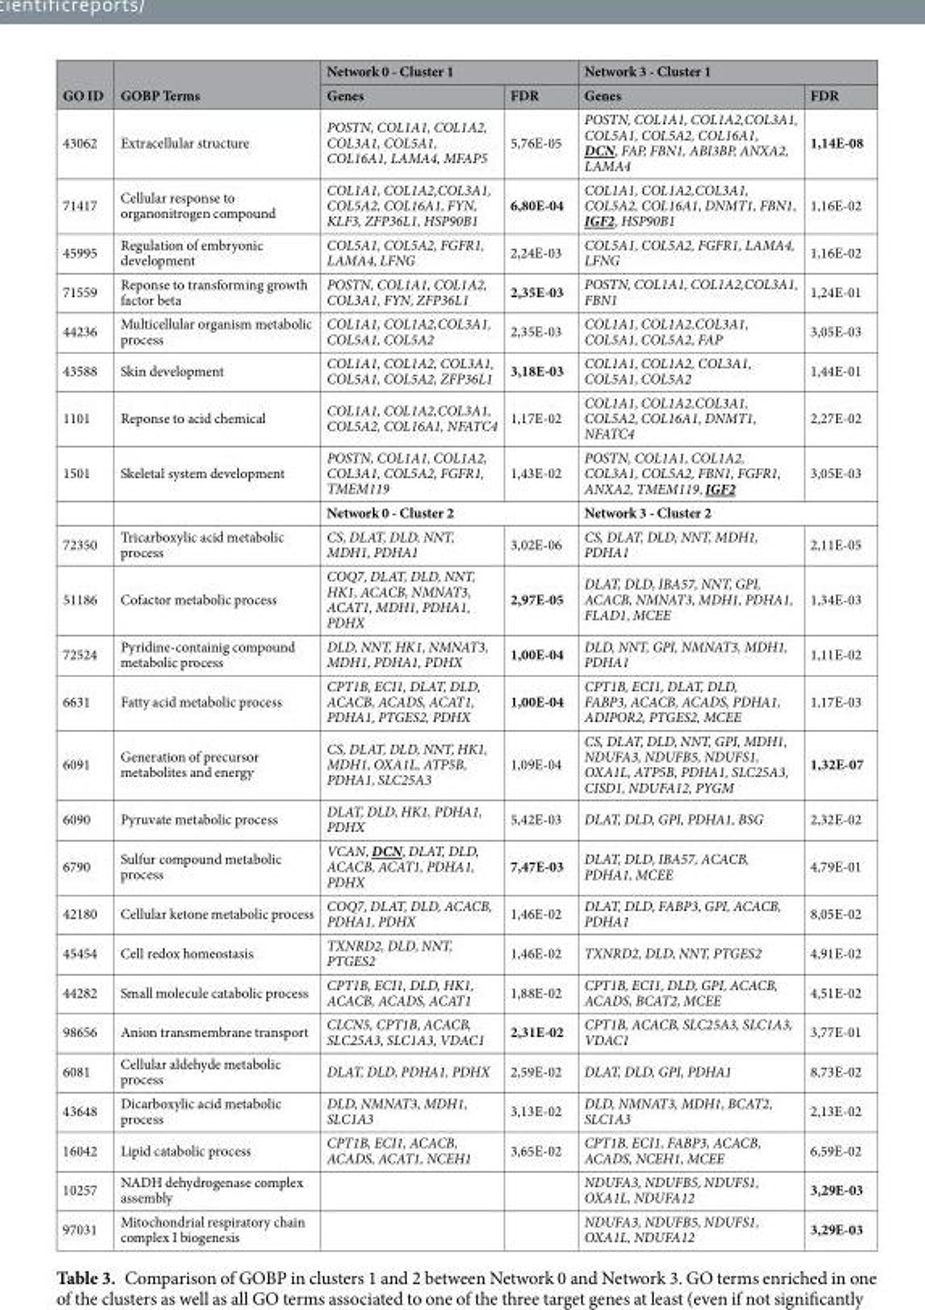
<table><thead><tr><td rowspan="2">GO ID</td><td rowspan="2">GOBP Terms</td><td colspan="2">Network 0 - Cluster 1</td><td colspan="2">Network 3 - Cluster 1</td></tr><tr><td>Genes</td><td>FDR</td><td>Genes</td><td>FDR</td></tr></thead><tbody><tr><td>43062</td><td>Extracellular structure</td><td>POSTN, COL1A1, COL1A2, COL3A1, COL5A1, COL16A1, LAMA4, MFAP5</td><td>5,76E-05</td><td>POSTN, COL1A1, COL1A2,COL3A1, COL5A1, COL5A2, COL16A1, DCN, FAP, FBN1, ABI3BP, ANXA2, LAMA4</td><td>1,14E-08</td></tr><tr><td>71417</td><td>Cellular response to organonitrogen compound</td><td>COL1A1, COL1A2,COL3A1, COL5A2, COL16A1, FYN, KLF3, ZFP36L1, HSP90B1</td><td>6,80E-04</td><td>COL1A1, COL1A2,COL3A1, COL5A2, COL16A1, DNMT1, FBN1, IGF2, HSP90B1</td><td>1,16E-02</td></tr><tr><td>45995</td><td>Regulation of embryonic development</td><td>COL5A1, COL5A2, FGFR1, LAMA4, LFNG</td><td>2,24E-03</td><td>COL5A1, COL5A2, FGFR1, LAMA4, LFNG</td><td>1,16E-02</td></tr><tr><td>71559</td><td>Reponse to transforming growth factor beta</td><td>POSTN, COL1A1, COL1A2, COL3A1, FYN, ZFP36L1</td><td>2,35E-03</td><td>POSTN, COL1A1, COL1A2,COL3A1, FBN1</td><td>1,24E-01</td></tr><tr><td>44236</td><td>Multicellular organism metabolic process</td><td>COL1A1, COL1A2,COL3A1, COL5A1, COL5A2</td><td>2,35E-03</td><td>COL1A1, COL1A2,COL3A1, COL5A1, COL5A2, FAP</td><td>3,05E-03</td></tr><tr><td>43588</td><td>Skin development</td><td>COL1A1, COL1A2, COL3A1, COL5A1, COL5A2, ZFP36L1</td><td>3,18E-03</td><td>COL1A1, COL1A2, COL3A1, COL5A1, COL5A2</td><td>1,44E-01</td></tr><tr><td>1101</td><td>Reponse to acid chemical</td><td>COL1A1, COL1A2,COL3A1, COL5A2, COL16A1, NFATC4</td><td>1,17E-02</td><td>COL1A1, COL1A2,COL3A1, COL5A2, COL16A1, DNMT1, NFATC4</td><td>2,27E-02</td></tr><tr><td rowspan="2">1501</td><td>Skeletal system development</td><td>POSTN, COL1A1, COL1A2, COL3A1, COL5A2, FGFR1, TMEM119</td><td>1,43E-02</td><td>POSTN, COL1A1, COL1A2, COL3A1, COL5A2, FBN1, FGFR1, ANXA2, TMEM119, IGF2</td><td>3,05E-03</td></tr><tr><td></td><td colspan="2">Network 0 - Cluster 2</td><td colspan="2">Network 3 - Cluster 2</td></tr><tr><td>72350</td><td>Tricarboxylic acid metabolic process</td><td>CS, DLAT, DLD, NNT, MDH1, PDHA1</td><td>3,02E-06</td><td>CS, DLAT, DLD, NNT, MDH1, PDHA1</td><td>2,11E-05</td></tr><tr><td>51186</td><td>Cofactor metabolic process</td><td>COQ7, DLAT, DLD, NNT, HK1, ACACB, NMNAT3, ACAT1, MDH1, PDHA1, PDHX</td><td>2,97E-05</td><td>DLAT, DLD, IBA57, NNT, GPI, ACACB, NMNAT3, MDH1, PDHA1, FLAD1, MCEE</td><td>1,34E-03</td></tr><tr><td>72524</td><td>Pyridine-containig compound metabolic process</td><td>DLD, NNT, HK1, NMNAT3, MDH1, PDHA1, PDHX</td><td>1,00E-04</td><td>DLD, NNT, GPI, NMNAT3, MDH1, PDHA1</td><td>1,11E-02</td></tr><tr><td>6631</td><td>Fatty acid metabolic process</td><td>CPT1B, ECI1, DLAT, DLD, ACACB, ACADS, ACAT1, PDHA1, PTGES2, PDHX</td><td>1,00E-04</td><td>CPT1B, ECI1, DLAT, DLD, FABP3, ACACB, ACADS, PDHA1, ADIPOR2, PTGES2, MCEE</td><td>1,17E-03</td></tr><tr><td>6091</td><td>Generation of precursor metabolites and energy</td><td>CS, DLAT, DLD, NNT, HK1, MDH1, OXA1L, ATP5B, PDHA1, SLC25A3</td><td>1,09E-04</td><td>CS, DLAT, DLD, NNT, GPI, MDH1, NDUFA3, NDUFB5, NDUFS1, OXA1L, ATP5B, PDHA1, SLC25A3, CISD1, NDUFA12, PYGM</td><td>1,32E-07</td></tr><tr><td>6090</td><td>Pyruvate metabolic process</td><td>DLAT, DLD, HK1, PDHA1, PDHX</td><td>5,42E-03</td><td>DLAT, DLD, GPI, PDHA1, BSG</td><td>2,32E-02</td></tr><tr><td>6790</td><td>Sulfur compound metabolic process</td><td>VCAN, DCN, DLAT, DLD, ACACB, ACAT1, PDHA1, PDHX</td><td>7,47E-03</td><td>DLAT, DLD, IBA57, ACACB, PDHA1, MCEE</td><td>4,79E-01</td></tr><tr><td>42180</td><td>Cellular ketone metabolic process</td><td>COQ7, DLAT, DLD, ACACB, PDHA1, PDHX</td><td>1,46E-02</td><td>DLAT, DLD, FABP3, GPI, ACACB, PDHA1</td><td>8,05E-02</td></tr><tr><td>45454</td><td>Cell redox homeostasis</td><td>TXNRD2, DLD, NNT, PTGES2</td><td>1,46E-02</td><td>TXNRD2, DLD, NNT, PTGES2</td><td>4,91E-02</td></tr><tr><td>44282</td><td>Small molecule catabolic process</td><td>CPT1B, ECI1, DLD, HK1, ACACB, ACADS, ACAT1</td><td>1,88E-02</td><td>CPT1B, ECI1, DLD, GPI, ACACB, ACADS, BCAT2, MCEE</td><td>4,51E-02</td></tr><tr><td>98656</td><td>Anion transmembrane transport</td><td>CLCN5, CPT1B, ACACB, SLC25A3, SLC1A3, VDAC1</td><td>2,31E-02</td><td>CPT1B, ACACB, SLC25A3, SLC1A3, VDAC1</td><td>3,77E-01</td></tr><tr><td>6081</td><td>Cellular aldehyde metabolic process</td><td>DLAT, DLD, PDHA1, PDHX</td><td>2,59E-02</td><td>DLAT, DLD, GPI, PDHA1</td><td>8,73E-02</td></tr><tr><td>43648</td><td>Dicarboxylic acid metabolic process</td><td>DLD, NMNAT3, MDH1, SLC1A3</td><td>3,13E-02</td><td>DLD, NMNAT3, MDH1, BCAT2, SLC1A3</td><td>2,13E-02</td></tr><tr><td>16042</td><td>Lipid catabolic process</td><td>CPT1B, ECI1, ACACB, ACADS, ACAT1, NCEH1</td><td>3,65E-02</td><td>CPT1B, ECI1, FABP3, ACACB, ACADS, NCEH1, MCEE</td><td>6,59E-02</td></tr><tr><td>10257</td><td>NADH dehydrogenase complex assembly</td><td></td><td></td><td>NDUFA3, NDUFB5, NDUFS1, OXA1L, NDUFA12</td><td>3,29E-03</td></tr><tr><td>97031</td><td>Mitochondrial respiratory chain complex I biogenesis</td><td></td><td></td><td>NDUFA3, NDUFB5, NDUFS1, OXA1L, NDUFA12</td><td>3,29E-03</td></tr></tbody></table>